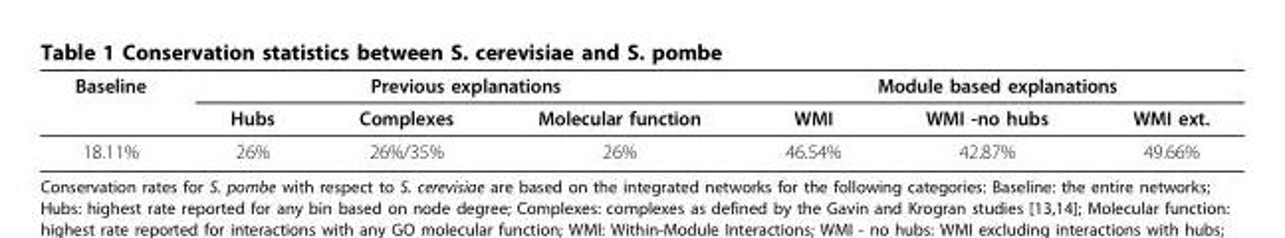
<table><thead><tr><td rowspan="2">Baseline</td><td colspan="3">Previous explanations</td><td colspan="3">Module based explanations</td></tr><tr><td>Hubs</td><td>Complexes</td><td>Molecular function</td><td>WMI</td><td>WMI -no hubs</td><td>WMI ext.</td></tr></thead><tbody><tr><td>18.11%</td><td>26%</td><td>26%/35%</td><td>26%</td><td>46.54%</td><td>42.87%</td><td>49.66%</td></tr></tbody></table>